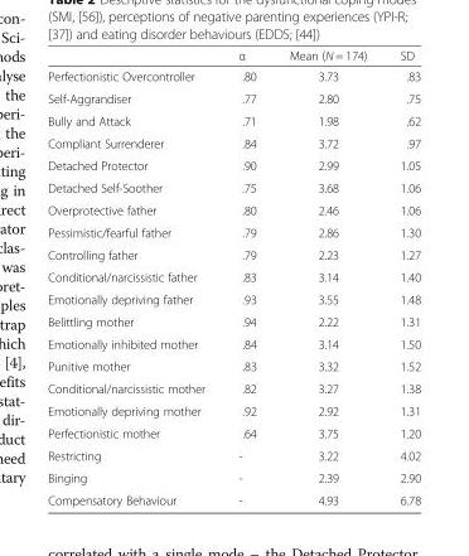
<table><thead><tr><td></td><td>α</td><td>Mean (N = 174)</td><td>SD</td></tr></thead><tbody><tr><td>Perfectionistic Overcontroller</td><td>.80</td><td>3.73</td><td>.83</td></tr><tr><td>Self-Aggrandiser</td><td>.77</td><td>2.80</td><td>.75</td></tr><tr><td>Bully and Attack</td><td>.71</td><td>1.98</td><td>.62</td></tr><tr><td>Compliant Surrenderer</td><td>.84</td><td>3.72</td><td>.97</td></tr><tr><td>Detached Protector</td><td>.90</td><td>2.99</td><td>1.05</td></tr><tr><td>Detached Self-Soother</td><td>.75</td><td>3.68</td><td>1.06</td></tr><tr><td>Overprotective father</td><td>.80</td><td>2.46</td><td>1.06</td></tr><tr><td>Pessimistic/fearful father</td><td>.79</td><td>2.86</td><td>1.30</td></tr><tr><td>Controlling father</td><td>.79</td><td>2.23</td><td>1.27</td></tr><tr><td>Conditional/narcissistic father</td><td>.83</td><td>3.14</td><td>1.40</td></tr><tr><td>Emotionally depriving father</td><td>.93</td><td>3.55</td><td>1.48</td></tr><tr><td>Belittling mother</td><td>.94</td><td>2.22</td><td>1.31</td></tr><tr><td>Emotionally inhibited mother</td><td>.84</td><td>3.14</td><td>1.50</td></tr><tr><td>Punitive mother</td><td>.83</td><td>3.32</td><td>1.52</td></tr><tr><td>Conditional/narcissistic mother</td><td>.82</td><td>3.27</td><td>1.38</td></tr><tr><td>Emotionally depriving mother</td><td>.92</td><td>2.92</td><td>1.31</td></tr><tr><td>Perfectionistic mother</td><td>.64</td><td>3.75</td><td>1.20</td></tr><tr><td>Restricting</td><td>-</td><td>3.22</td><td>4.02</td></tr><tr><td>Binging</td><td>-</td><td>2.39</td><td>2.90</td></tr><tr><td>Compensatory Behaviour</td><td>-</td><td>4.93</td><td>6.78</td></tr></tbody></table>